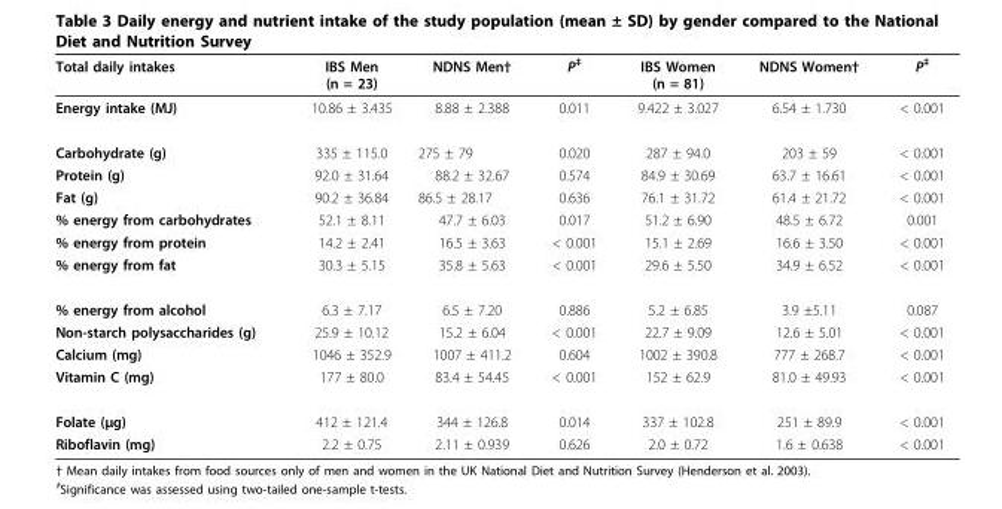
<table><thead><tr><td>Total daily intakes</td><td>IBS Men (n = 23)</td><td>NDNS Men†</td><td>P<sup>‡</sup></td><td>IBS Women (n = 81)</td><td>NDNS Women†</td><td>P<sup>‡</sup></td></tr></thead><tbody><tr><td>Energy intake (MJ)</td><td>10.86 ± 3.435</td><td>8.88 ± 2.388</td><td>0.011</td><td>9.422 ± 3.027</td><td>6.54 ± 1.730</td><td>&lt; 0.001</td></tr><tr><td>Carbohydrate (g)</td><td>335 ± 115.0</td><td>275 ± 79</td><td>0.020</td><td>287 ± 94.0</td><td>203 ± 59</td><td>&lt; 0.001</td></tr><tr><td>Protein (g)</td><td>92.0 ± 31.64</td><td>88.2 ± 32.67</td><td>0.574</td><td>84.9 ± 30.69</td><td>63.7 ± 16.61</td><td>&lt; 0.001</td></tr><tr><td>Fat (g)</td><td>90.2 ± 36.84</td><td>86.5 ± 28.17</td><td>0.636</td><td>76.1 ± 31.72</td><td>61.4 ± 21.72</td><td>&lt; 0.001</td></tr><tr><td>% energy from carbohydrates</td><td>52.1 ± 8.11</td><td>47.7 ± 6.03</td><td>0.017</td><td>51.2 ± 6.90</td><td>48.5 ± 6.72</td><td>0.001</td></tr><tr><td>% energy from protein</td><td>14.2 ± 2.41</td><td>16.5 ± 3.63</td><td>&lt; 0.001</td><td>15.1 ± 2.69</td><td>16.6 ± 3.50</td><td>&lt; 0.001</td></tr><tr><td>% energy from fat</td><td>30.3 ± 5.15</td><td>35.8 ± 5.63</td><td>&lt; 0.001</td><td>29.6 ± 5.50</td><td>34.9 ± 6.52</td><td>&lt; 0.001</td></tr><tr><td>% energy from alcohol</td><td>6.3 ± 7.17</td><td>6.5 ± 7.20</td><td>0.886</td><td>5.2 ± 6.85</td><td>3.9 ±5.11</td><td>0.087</td></tr><tr><td>Non-starch polysaccharides (g)</td><td>25.9 ± 10.12</td><td>15.2 ± 6.04</td><td>&lt; 0.001</td><td>22.7 ± 9.09</td><td>12.6 ± 5.01</td><td>&lt; 0.001</td></tr><tr><td>Calcium (mg)</td><td>1046 ± 352.9</td><td>1007 ± 411.2</td><td>0.604</td><td>1002 ± 390.8</td><td>777 ± 268.7</td><td>&lt; 0.001</td></tr><tr><td>Vitamin C (mg)</td><td>177 ± 80.0</td><td>83.4 ± 54.45</td><td>&lt; 0.001</td><td>152 ± 62.9</td><td>81.0 ± 49.93</td><td>&lt; 0.001</td></tr><tr><td>Folate (μg)</td><td>412 ± 121.4</td><td>344 ± 126.8</td><td>0.014</td><td>337 ± 102.8</td><td>251 ± 89.9</td><td>&lt; 0.001</td></tr><tr><td>Riboflavin (mg)</td><td>2.2 ± 0.75</td><td>2.11 ± 0.939</td><td>0.626</td><td>2.0 ± 0.72</td><td>1.6 ± 0.638</td><td>&lt; 0.001</td></tr></tbody></table>